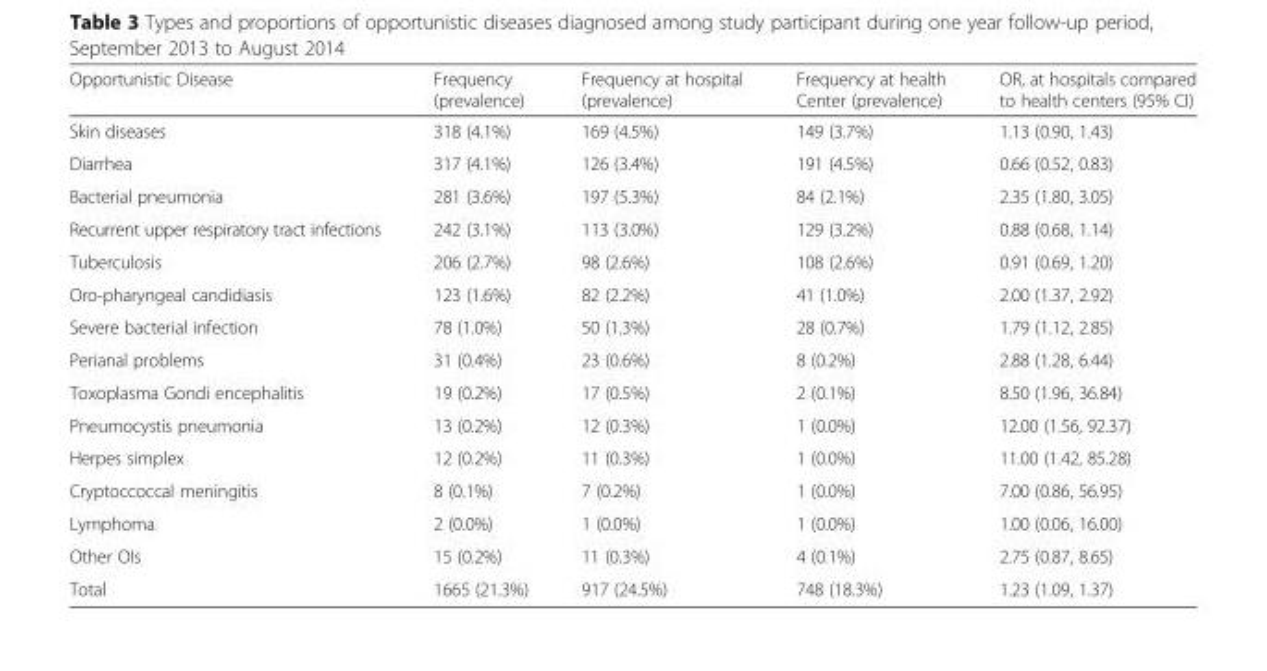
<table><thead><tr><td>Opportunistic Disease</td><td>Frequency (prevalence)</td><td>Frequency at hospital (prevalence)</td><td>Frequency at health Center (prevalence)</td><td>OR, at hospitals compared to health centers (95% CI)</td></tr></thead><tbody><tr><td>Skin diseases</td><td>318 (4.1%)</td><td>169 (4.5%)</td><td>149 (3.7%)</td><td>1.13 (0.90, 1.43)</td></tr><tr><td>Diarrhea</td><td>317 (4.1%)</td><td>126 (3.4%)</td><td>191 (4.5%)</td><td>0.66 (0.52, 0.83)</td></tr><tr><td>Bacterial pneumonia</td><td>281 (3.6%)</td><td>197 (5.3%)</td><td>84 (2.1%)</td><td>2.35 (1.80, 3.05)</td></tr><tr><td>Recurrent upper respiratory tract infections</td><td>242 (3.1%)</td><td>113 (3.0%)</td><td>129 (3.2%)</td><td>0.88 (0.68, 1.14)</td></tr><tr><td>Tuberculosis</td><td>206 (2.7%)</td><td>98 (2.6%)</td><td>108 (2.6%)</td><td>0.91 (0.69, 1.20)</td></tr><tr><td>Oro-pharyngeal candidiasis</td><td>123 (1.6%)</td><td>82 (2.2%)</td><td>41 (1.0%)</td><td>2.00 (1.37, 2.92)</td></tr><tr><td>Severe bacterial infection</td><td>78 (1.0%)</td><td>50 (1.3%)</td><td>28 (0.7%)</td><td>1.79 (1.12, 2.85)</td></tr><tr><td>Perianal problems</td><td>31 (0.4%)</td><td>23 (0.6%)</td><td>8 (0.2%)</td><td>2.88 (1.28, 6.44)</td></tr><tr><td>Toxoplasma Gondi encephalitis</td><td>19 (0.2%)</td><td>17 (0.5%)</td><td>2 (0.1%)</td><td>8.50 (1.96, 36.84)</td></tr><tr><td>Pneumocystis pneumonia</td><td>13 (0.2%)</td><td>12 (0.3%)</td><td>1 (0.0%)</td><td>12.00 (1.56, 92.37)</td></tr><tr><td>Herpes simplex</td><td>12 (0.2%)</td><td>11 (0.3%)</td><td>1 (0.0%)</td><td>11.00 (1.42, 85.28)</td></tr><tr><td>Cryptoccoccal meningitis</td><td>8 (0.1%)</td><td>7 (0.2%)</td><td>1 (0.0%)</td><td>7.00 (0.86, 56.95)</td></tr><tr><td>Lymphoma</td><td>2 (0.0%)</td><td>1 (0.0%)</td><td>1 (0.0%)</td><td>1.00 (0.06, 16.00)</td></tr><tr><td>Other OIs</td><td>15 (0.2%)</td><td>11 (0.3%)</td><td>4 (0.1%)</td><td>2.75 (0.87, 8.65)</td></tr><tr><td>Total</td><td>1665 (21.3%)</td><td>917 (24.5%)</td><td>748 (18.3%)</td><td>1.23 (1.09, 1.37)</td></tr></tbody></table>